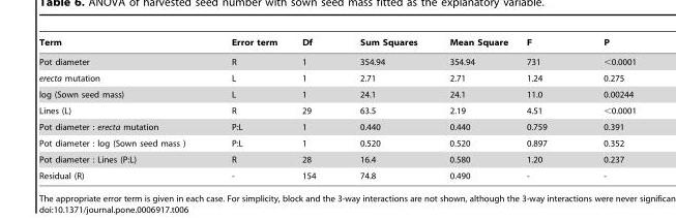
<table><thead><tr><td>Term</td><td>Error term</td><td>Df</td><td>Sum Squares</td><td>Mean Square</td><td>F</td><td>P</td></tr></thead><tbody><tr><td>Pot diameter</td><td>R</td><td>1</td><td>354.94</td><td>354.94</td><td>731</td><td>&lt;0.0001</td></tr><tr><td>erecta mutation</td><td>L</td><td>1</td><td>2.71</td><td>2.71</td><td>1.24</td><td>0.275</td></tr><tr><td>log (Sown seed mass)</td><td>L</td><td>1</td><td>24.1</td><td>24.1</td><td>11.0</td><td>0.00244</td></tr><tr><td>Lines (L)</td><td>R</td><td>29</td><td>63.5</td><td>2.19</td><td>4.51</td><td>&lt;0.0001</td></tr><tr><td>Pot diameter : erecta mutation</td><td>P:L</td><td>1</td><td>0.440</td><td>0.440</td><td>0.759</td><td>0.391</td></tr><tr><td>Pot diameter : log (Sown seed mass )</td><td>P:L</td><td>1</td><td>0.520</td><td>0.520</td><td>0.897</td><td>0.352</td></tr><tr><td>Pot diameter : Lines (P:L)</td><td>R</td><td>28</td><td>16.4</td><td>0.580</td><td>1.20</td><td>0.237</td></tr><tr><td>Residual (R)</td><td>-</td><td>154</td><td>74.8</td><td>0.490</td><td>-</td><td>-</td></tr></tbody></table>